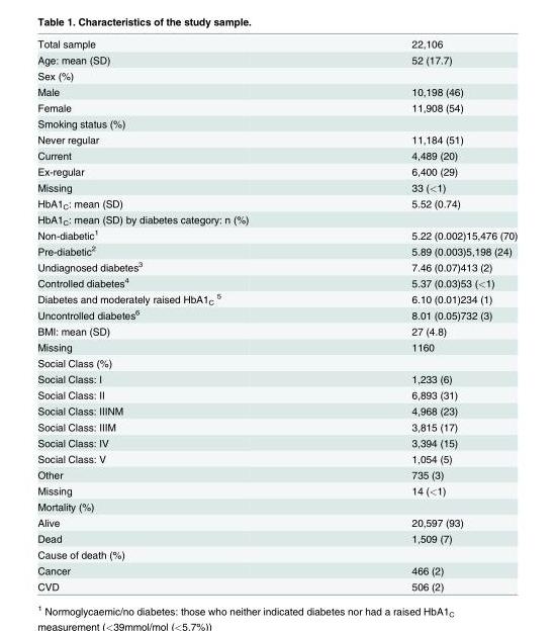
<table><tbody><tr><td>Total sample</td><td>22,106</td></tr><tr><td>Age: mean (SD)</td><td>52 (17.7)</td></tr><tr><td colspan="2">Sex (%)</td></tr><tr><td>Male</td><td>10,198 (46)</td></tr><tr><td>Female</td><td>11,908 (54)</td></tr><tr><td colspan="2">Smoking status (%)</td></tr><tr><td>Never regular</td><td>11,184 (51)</td></tr><tr><td>Current</td><td>4,489 (20)</td></tr><tr><td>Ex-regular</td><td>6,400 (29)</td></tr><tr><td>Missing</td><td>33 (&lt;1)</td></tr><tr><td>HbA1<sub>C</sub>: mean (SD)</td><td>5.52 (0.74)</td></tr><tr><td colspan="2">HbA1<sub>C</sub>: mean (SD) by diabetes category: n (%)</td></tr><tr><td>Non-diabetic<sup>1</sup></td><td>5.22 (0.002)15,476 (70)</td></tr><tr><td>Pre-diabetic<sup>2</sup></td><td>5.89 (0.003)5,198 (24)</td></tr><tr><td>Undiagnosed diabetes<sup>3</sup></td><td>7.46 (0.07)413 (2)</td></tr><tr><td>Controlled diabetes<sup>4</sup></td><td>5.37 (0.03)53 (&lt;1)</td></tr><tr><td>Diabetes and moderately raised HbA1<sub>C</sub> <sup>5</sup></td><td>6.10 (0.01)234 (1)</td></tr><tr><td>Uncontrolled diabetes<sup>6</sup></td><td>8.01 (0.05)732 (3)</td></tr><tr><td>BMI: mean (SD)</td><td>27 (4.8)</td></tr><tr><td>Missing</td><td>1160</td></tr><tr><td colspan="2">Social Class (%)</td></tr><tr><td>Social Class: I</td><td>1,233 (6)</td></tr><tr><td>Social Class: II</td><td>6,893 (31)</td></tr><tr><td>Social Class: IIINM</td><td>4,968 (23)</td></tr><tr><td>Social Class: IIIM</td><td>3,815 (17)</td></tr><tr><td>Social Class: IV</td><td>3,394 (15)</td></tr><tr><td>Social Class: V</td><td>1,054 (5)</td></tr><tr><td>Other</td><td>735 (3)</td></tr><tr><td>Missing</td><td>14 (&lt;1)</td></tr><tr><td colspan="2">Mortality (%)</td></tr><tr><td>Alive</td><td>20,597 (93)</td></tr><tr><td>Dead</td><td>1,509 (7)</td></tr><tr><td colspan="2">Cause of death (%)</td></tr><tr><td>Cancer</td><td>466 (2)</td></tr><tr><td>CVD</td><td>506 (2)</td></tr></tbody></table>